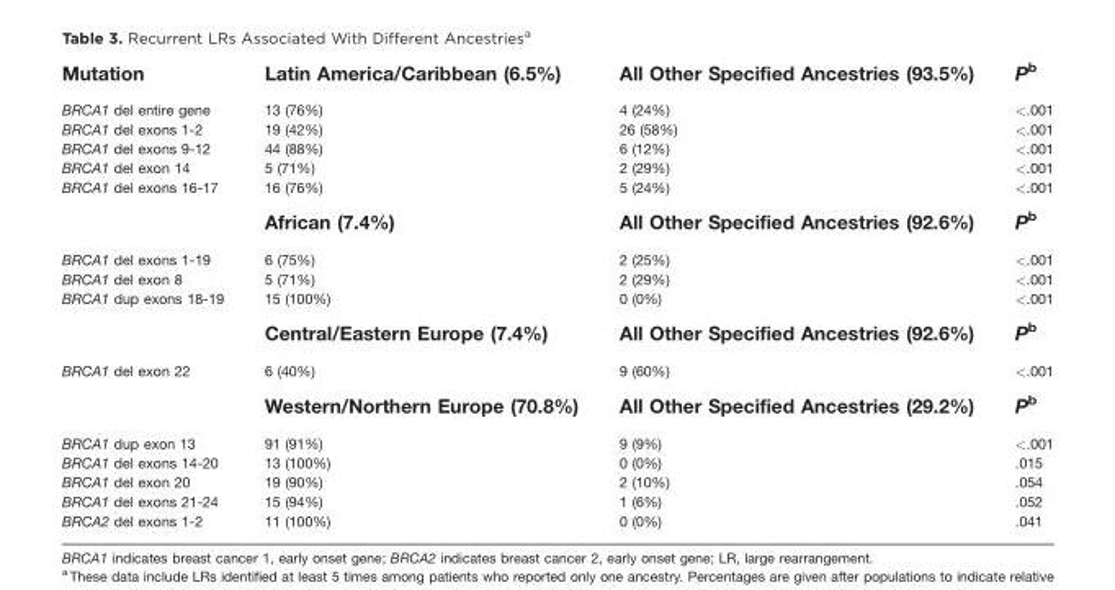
<table><thead><tr><td>Mutation</td><td>Latin America/Caribbean (6.5%)</td><td>All Other Specified Ancestries (93.5%)</td><td>P<sup>b</sup></td></tr></thead><tbody><tr><td>BRCA1 del entire gene</td><td>13 (76%)</td><td>4 (24%)</td><td>&lt;.001</td></tr><tr><td>BRCA1 del exons 1-2</td><td>19 (42%)</td><td>26 (58%)</td><td>&lt;.001</td></tr><tr><td>BRCA1 del exons 9-12</td><td>44 (88%)</td><td>6 (12%)</td><td>&lt;.001</td></tr><tr><td>BRCA1 del exon 14</td><td>5 (71%)</td><td>2 (29%)</td><td>&lt;.001</td></tr><tr><td rowspan="2">BRCA1 del exons 16-17</td><td>16 (76%)</td><td>5 (24%)</td><td>&lt;.001</td></tr><tr><td>African (7.4%)</td><td>All Other Specified Ancestries (92.6%)</td><td>P<sup>b</sup></td></tr><tr><td>BRCA1 del exons 1-19</td><td>6 (75%)</td><td>2 (25%)</td><td>&lt;.001</td></tr><tr><td>BRCA1 del exon 8</td><td>5 (71%)</td><td>2 (29%)</td><td>&lt;.001</td></tr><tr><td rowspan="2">BRCA1 dup exons 18-19</td><td>15 (100%)</td><td>0 (0%)</td><td>&lt;.001</td></tr><tr><td>Central/Eastern Europe (7.4%)</td><td>All Other Specified Ancestries (92.6%)</td><td>P<sup>b</sup></td></tr><tr><td rowspan="2">BRCA1 del exon 22</td><td>6 (40%)</td><td>9 (60%)</td><td>&lt;.001</td></tr><tr><td>Western/Northern Europe (70.8%)</td><td>All Other Specified Ancestries (29.2%)</td><td>P<sup>b</sup></td></tr><tr><td>BRCA1 dup exon 13</td><td>91 (91%)</td><td>9 (9%)</td><td>&lt;.001</td></tr><tr><td>BRCA1 del exons 14-20</td><td>13 (100%)</td><td>0 (0%)</td><td>.015</td></tr><tr><td>BRCA1 del exon 20</td><td>19 (90%)</td><td>2 (10%)</td><td>.054</td></tr><tr><td>BRCA1 del exons 21-24</td><td>15 (94%)</td><td>1 (6%)</td><td>.052</td></tr><tr><td>BRCA2 del exons 1-2</td><td>11 (100%)</td><td>0 (0%)</td><td>.041</td></tr></tbody></table>